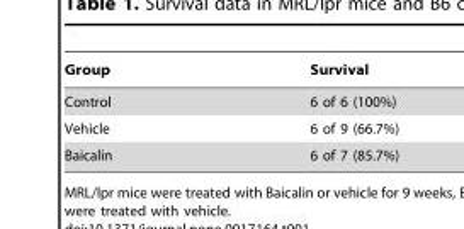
<table><thead><tr><td>Group</td><td>Survival</td></tr></thead><tbody><tr><td>Control</td><td>6 of 6 (100%)</td></tr><tr><td>Vehicle</td><td>6 of 9 (66.7%)</td></tr><tr><td>Baicalin</td><td>6 of 7 (85.7%)</td></tr></tbody></table>